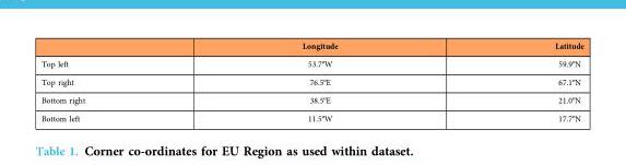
<table><thead><tr><td></td><td>Longitude</td><td>Latitude</td></tr></thead><tbody><tr><td>Top left</td><td>53.7ºW</td><td>59.9ºN</td></tr><tr><td>Top right</td><td>76.5ºE</td><td>67.1ºN</td></tr><tr><td>Bottom right</td><td>38.5ºE</td><td>21.0ºN</td></tr><tr><td>Bottom left</td><td>11.5ºW</td><td>17.7ºN</td></tr></tbody></table>